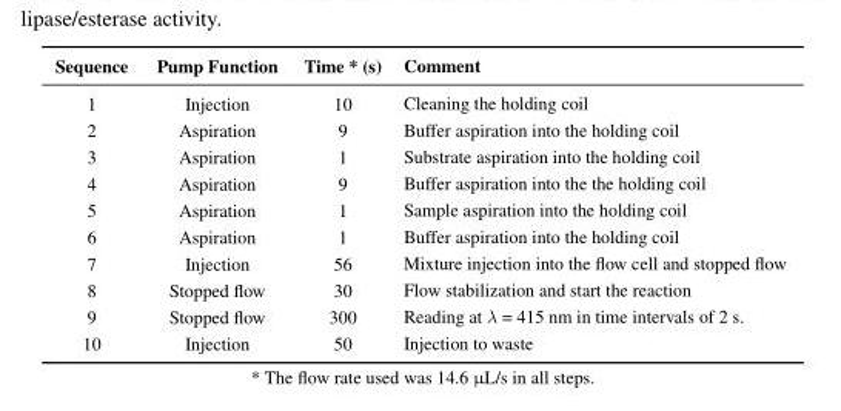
<table><thead><tr><td>Sequence</td><td>Pump Function</td><td>Time * (s)</td><td>Comment</td></tr></thead><tbody><tr><td>1</td><td>Injection</td><td>10</td><td>Cleaning the holding coil</td></tr><tr><td>2</td><td>Aspiration</td><td>9</td><td>Buffer aspiration into the holding coil</td></tr><tr><td>3</td><td>Aspiration</td><td>1</td><td>Substrate aspiration into the holding coil</td></tr><tr><td>4</td><td>Aspiration</td><td>9</td><td>Buffer aspiration into the the holding coil</td></tr><tr><td>5</td><td>Aspiration</td><td>1</td><td>Sample aspiration into the holding coil</td></tr><tr><td>6</td><td>Aspiration</td><td>1</td><td>Buffer aspiration into the holding coil</td></tr><tr><td>7</td><td>Injection</td><td>56</td><td>Mixture injection into the flow cell and stopped flow</td></tr><tr><td>8</td><td>Stopped flow</td><td>30</td><td>Flow stabilization and start the reaction</td></tr><tr><td>9</td><td>Stopped flow</td><td>300</td><td>Reading at λ = 415 nm in time intervals of 2 s.</td></tr><tr><td>10</td><td>Injection</td><td>50</td><td>Injection to waste</td></tr></tbody></table>